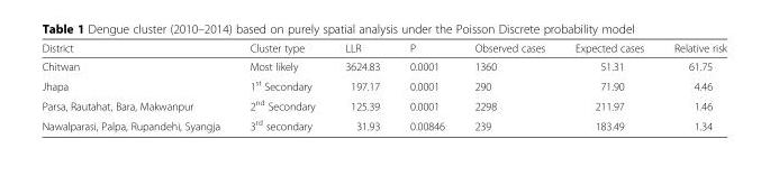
<table><thead><tr><td>District</td><td>Cluster type</td><td>LLR</td><td>P</td><td>Observed cases</td><td>Expected cases</td><td>Relative risk</td></tr></thead><tbody><tr><td>Chitwan</td><td>Most likely</td><td>3624.83</td><td>0.0001</td><td>1360</td><td>51.31</td><td>61.75</td></tr><tr><td>Jhapa</td><td>1<sup>st</sup> Secondary</td><td>197.17</td><td>0.0001</td><td>290</td><td>71.90</td><td>4.46</td></tr><tr><td>Parsa, Rautahat, Bara, Makwanpur</td><td>2<sup>nd</sup> Secondary</td><td>125.39</td><td>0.0001</td><td>2298</td><td>211.97</td><td>1.46</td></tr><tr><td>Nawalparasi, Palpa, Rupandehi, Syangja</td><td>3<sup>rd</sup> secondary</td><td>31.93</td><td>0.00846</td><td>239</td><td>183.49</td><td>1.34</td></tr></tbody></table>